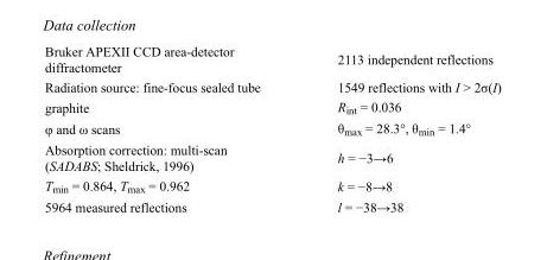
<table><tbody><tr><td>Bruker APEXII CCD area-detector diffractometer</td><td>2113 independent reflections</td></tr><tr><td>Radiation source: fine-focus sealed tube</td><td>1549 reflections with I &gt; 2σ(I)</td></tr><tr><td>graphite</td><td>R<sub>int</sub> = 0.036</td></tr><tr><td>φ and ω scans</td><td>θ<sub>max</sub> = 28.3°, θ<sub>min</sub> = 1.4°</td></tr><tr><td>Absorption correction: multi-scan (SADABS; Sheldrick, 1996)</td><td>h = −3→6</td></tr><tr><td>T<sub>min</sub> = 0.864, T<sub>max</sub> = 0.962</td><td>k = −8→8</td></tr><tr><td>5964 measured reflections</td><td>l = −38→38</td></tr></tbody></table>